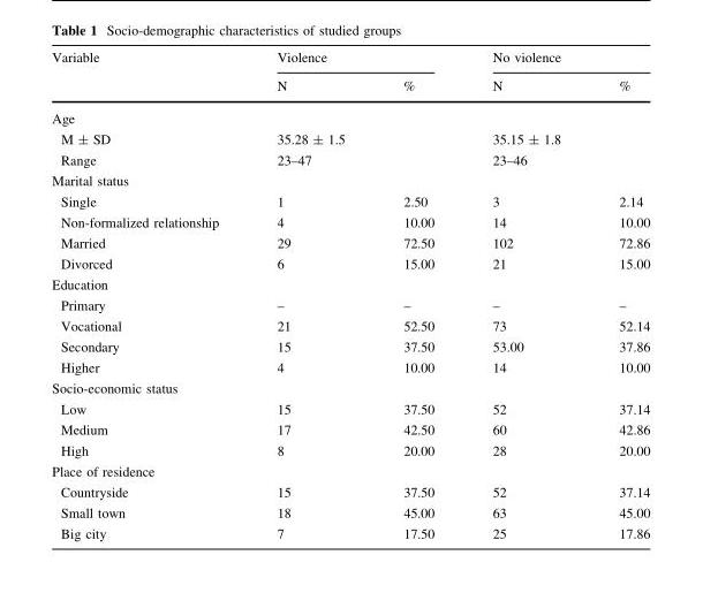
<table><thead><tr><td rowspan="2">Variable</td><td colspan="2">Violence</td><td colspan="2">No violence</td></tr><tr><td>N</td><td>%</td><td>N</td><td>%</td></tr></thead><tbody><tr><td colspan="5">Age</td></tr><tr><td>M ± SD</td><td>35.28 ± 1.5</td><td></td><td>35.15 ± 1.8</td><td></td></tr><tr><td>Range</td><td>23–47</td><td></td><td>23–46</td><td></td></tr><tr><td colspan="5">Marital status</td></tr><tr><td>Single</td><td>1</td><td>2.50</td><td>3</td><td>2.14</td></tr><tr><td>Non-formalized relationship</td><td>4</td><td>10.00</td><td>14</td><td>10.00</td></tr><tr><td>Married</td><td>29</td><td>72.50</td><td>102</td><td>72.86</td></tr><tr><td>Divorced</td><td>6</td><td>15.00</td><td>21</td><td>15.00</td></tr><tr><td colspan="5">Education</td></tr><tr><td>Primary</td><td>–</td><td>–</td><td>–</td><td>–</td></tr><tr><td>Vocational</td><td>21</td><td>52.50</td><td>73</td><td>52.14</td></tr><tr><td>Secondary</td><td>15</td><td>37.50</td><td>53.00</td><td>37.86</td></tr><tr><td>Higher</td><td>4</td><td>10.00</td><td>14</td><td>10.00</td></tr><tr><td colspan="5">Socio-economic status</td></tr><tr><td>Low</td><td>15</td><td>37.50</td><td>52</td><td>37.14</td></tr><tr><td>Medium</td><td>17</td><td>42.50</td><td>60</td><td>42.86</td></tr><tr><td>High</td><td>8</td><td>20.00</td><td>28</td><td>20.00</td></tr><tr><td colspan="5">Place of residence</td></tr><tr><td>Countryside</td><td>15</td><td>37.50</td><td>52</td><td>37.14</td></tr><tr><td>Small town</td><td>18</td><td>45.00</td><td>63</td><td>45.00</td></tr><tr><td>Big city</td><td>7</td><td>17.50</td><td>25</td><td>17.86</td></tr></tbody></table>